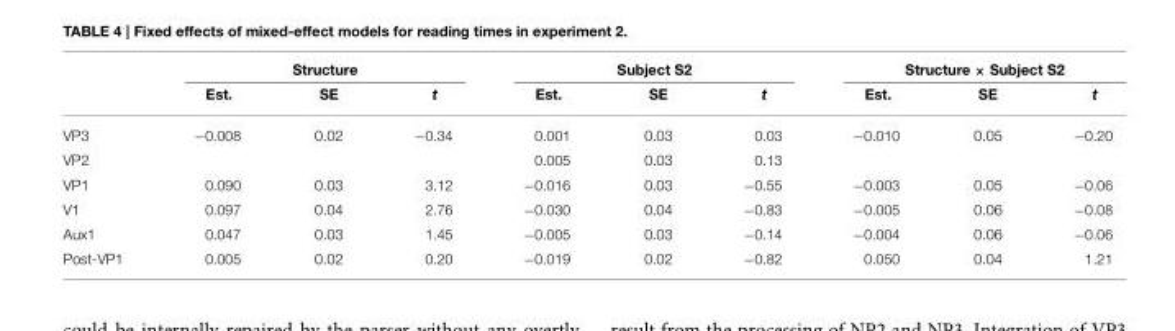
<table><thead><tr><td rowspan="2"></td><td colspan="3">Structure</td><td colspan="3">Subject S2</td><td colspan="3">Structure × Subject S2</td></tr><tr><td>Est.</td><td>SE</td><td>t</td><td>Est.</td><td>SE</td><td>t</td><td>Est.</td><td>SE</td><td>t</td></tr></thead><tbody><tr><td>VP3</td><td>−0.008</td><td>0.02</td><td>−0.34</td><td>0.001</td><td>0.03</td><td>0.03</td><td>−0.010</td><td>0.05</td><td>−0.20</td></tr><tr><td>VP2</td><td></td><td></td><td></td><td>0.005</td><td>0.03</td><td>0.13</td><td></td><td></td><td></td></tr><tr><td>VP1</td><td>0.090</td><td>0.03</td><td>3.12</td><td>−0.016</td><td>0.03</td><td>−0.55</td><td>−0.003</td><td>0.05</td><td>−0.06</td></tr><tr><td>V1</td><td>0.097</td><td>0.04</td><td>2.76</td><td>−0.030</td><td>0.04</td><td>−0.83</td><td>−0.005</td><td>0.06</td><td>−0.08</td></tr><tr><td>Aux1</td><td>0.047</td><td>0.03</td><td>1.45</td><td>−0.005</td><td>0.03</td><td>−0.14</td><td>−0.004</td><td>0.06</td><td>−0.06</td></tr><tr><td>Post-VP1</td><td>0.005</td><td>0.02</td><td>0.20</td><td>−0.019</td><td>0.02</td><td>−0.82</td><td>0.050</td><td>0.04</td><td>1.21</td></tr></tbody></table>